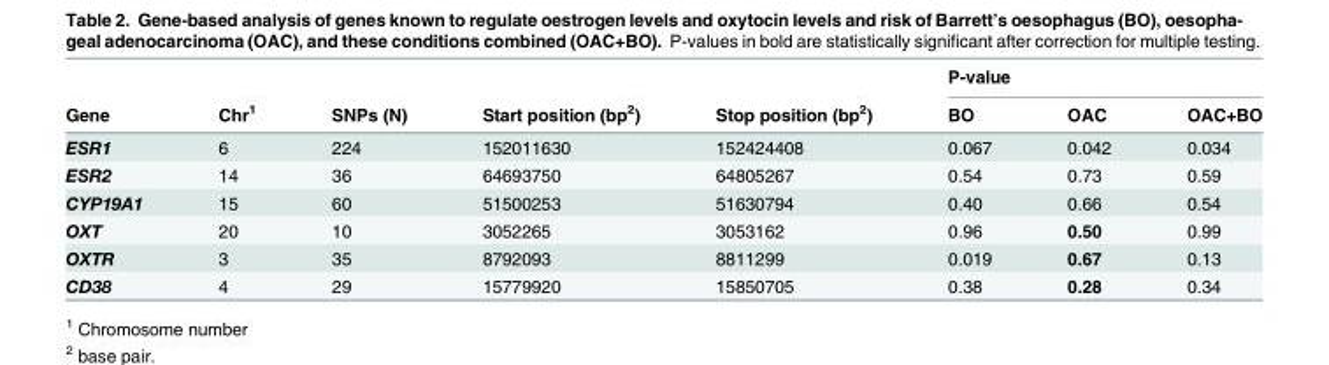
<table><thead><tr><td rowspan="2">Gene</td><td rowspan="2">Chr<sup>1</sup></td><td rowspan="2">SNPs (N)</td><td rowspan="2">Start position (bp<sup>2</sup>)</td><td rowspan="2">Stop position (bp<sup>2</sup>)</td><td colspan="3">P-value</td></tr><tr><td>BO</td><td>OAC</td><td>OAC+BO</td></tr></thead><tbody><tr><td>ESR1</td><td>6</td><td>224</td><td>152011630</td><td>152424408</td><td>0.067</td><td>0.042</td><td>0.034</td></tr><tr><td>ESR2</td><td>14</td><td>36</td><td>64693750</td><td>64805267</td><td>0.54</td><td>0.73</td><td>0.59</td></tr><tr><td>CYP19A1</td><td>15</td><td>60</td><td>51500253</td><td>51630794</td><td>0.40</td><td>0.66</td><td>0.54</td></tr><tr><td>OXT</td><td>20</td><td>10</td><td>3052265</td><td>3053162</td><td>0.96</td><td>0.50</td><td>0.99</td></tr><tr><td>OXTR</td><td>3</td><td>35</td><td>8792093</td><td>8811299</td><td>0.019</td><td>0.67</td><td>0.13</td></tr><tr><td>CD38</td><td>4</td><td>29</td><td>15779920</td><td>15850705</td><td>0.38</td><td>0.28</td><td>0.34</td></tr></tbody></table>